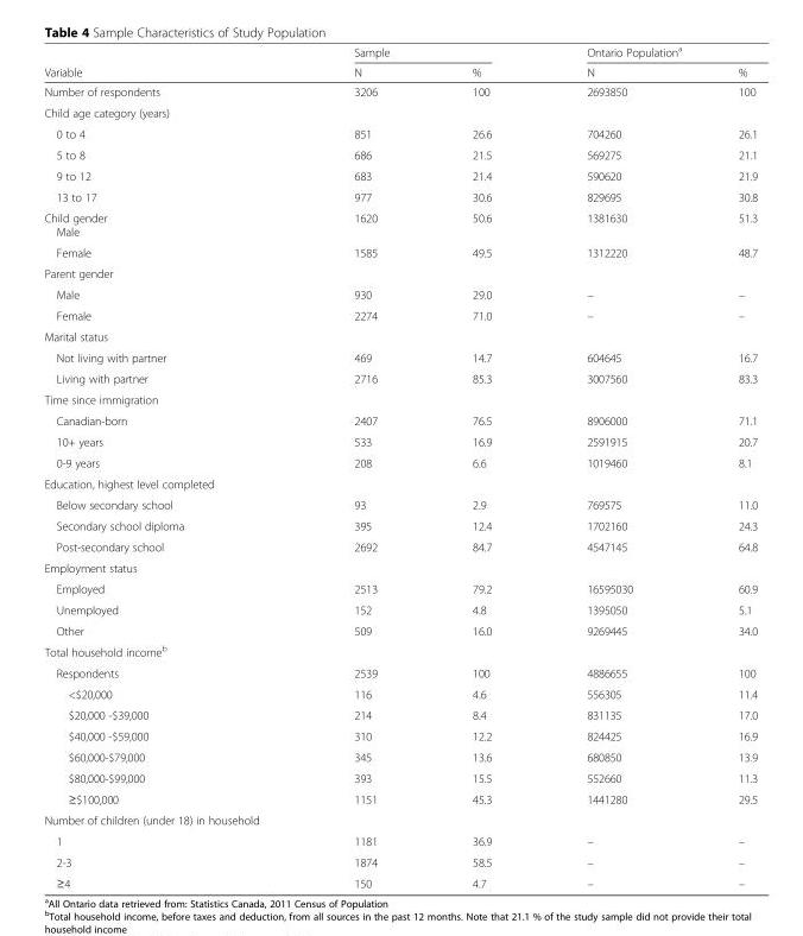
<table><thead><tr><td rowspan="2">Variable</td><td colspan="2">Sample</td><td colspan="2">Ontario Population<sup>a</sup></td></tr><tr><td>N</td><td>%</td><td>N</td><td>%</td></tr></thead><tbody><tr><td>Number of respondents</td><td>3206</td><td>100</td><td>2693850</td><td>100</td></tr><tr><td colspan="5">Child age category (years)</td></tr><tr><td>0 to 4</td><td>851</td><td>26.6</td><td>704260</td><td>26.1</td></tr><tr><td>5 to 8</td><td>686</td><td>21.5</td><td>569275</td><td>21.1</td></tr><tr><td>9 to 12</td><td>683</td><td>21.4</td><td>590620</td><td>21.9</td></tr><tr><td>13 to 17</td><td>977</td><td>30.6</td><td>829695</td><td>30.8</td></tr><tr><td>Child gender Male</td><td>1620</td><td>50.6</td><td>1381630</td><td>51.3</td></tr><tr><td>Female</td><td>1585</td><td>49.5</td><td>1312220</td><td>48.7</td></tr><tr><td colspan="5">Parent gender</td></tr><tr><td>Male</td><td>930</td><td>29.0</td><td>–</td><td>–</td></tr><tr><td>Female</td><td>2274</td><td>71.0</td><td>–</td><td>–</td></tr><tr><td colspan="5">Marital status</td></tr><tr><td>Not living with partner</td><td>469</td><td>14.7</td><td>604645</td><td>16.7</td></tr><tr><td>Living with partner</td><td>2716</td><td>85.3</td><td>3007560</td><td>83.3</td></tr><tr><td colspan="5">Time since immigration</td></tr><tr><td>Canadian-born</td><td>2407</td><td>76.5</td><td>8906000</td><td>71.1</td></tr><tr><td>10+ years</td><td>533</td><td>16.9</td><td>2591915</td><td>20.7</td></tr><tr><td>0-9 years</td><td>208</td><td>6.6</td><td>1019460</td><td>8.1</td></tr><tr><td colspan="5">Education, highest level completed</td></tr><tr><td>Below secondary school</td><td>93</td><td>2.9</td><td>769575</td><td>11.0</td></tr><tr><td>Secondary school diploma</td><td>395</td><td>12.4</td><td>1702160</td><td>24.3</td></tr><tr><td>Post-secondary school</td><td>2692</td><td>84.7</td><td>4547145</td><td>64.8</td></tr><tr><td colspan="5">Employment status</td></tr><tr><td>Employed</td><td>2513</td><td>79.2</td><td>16595030</td><td>60.9</td></tr><tr><td>Unemployed</td><td>152</td><td>4.8</td><td>1395050</td><td>5.1</td></tr><tr><td>Other</td><td>509</td><td>16.0</td><td>9269445</td><td>34.0</td></tr><tr><td colspan="5">Total household income<sup>b</sup></td></tr><tr><td>Respondents</td><td>2539</td><td>100</td><td>4886655</td><td>100</td></tr><tr><td>&lt;$20,000</td><td>116</td><td>4.6</td><td>556305</td><td>11.4</td></tr><tr><td>$20,000 -$39,000</td><td>214</td><td>8.4</td><td>831135</td><td>17.0</td></tr><tr><td>$40,000 -$59,000</td><td>310</td><td>12.2</td><td>824425</td><td>16.9</td></tr><tr><td>$60,000-$79,000</td><td>345</td><td>13.6</td><td>680850</td><td>13.9</td></tr><tr><td>$80,000-$99,000</td><td>393</td><td>15.5</td><td>552660</td><td>11.3</td></tr><tr><td>≥$100,000</td><td>1151</td><td>45.3</td><td>1441280</td><td>29.5</td></tr><tr><td colspan="5">Number of children (under 18) in household</td></tr><tr><td>1</td><td>1181</td><td>36.9</td><td>–</td><td>–</td></tr><tr><td>2-3</td><td>1874</td><td>58.5</td><td>–</td><td>–</td></tr><tr><td>≥4</td><td>150</td><td>4.7</td><td>–</td><td>–</td></tr></tbody></table>